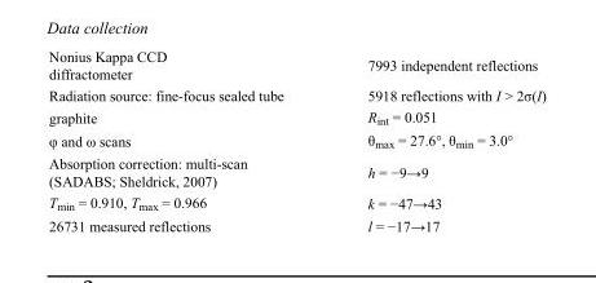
<table><tbody><tr><td>Nonius Kappa CCD diffractometer</td><td>7993 independent reflections</td></tr><tr><td>Radiation source: fine-focus sealed tube</td><td>5918 reflections with I &gt; 2σ(I)</td></tr><tr><td>graphite</td><td>R<sub>int</sub> = 0.051</td></tr><tr><td>φ and ω scans</td><td>θ<sub>max</sub> = 27.6°, θ<sub>min</sub> = 3.0°</td></tr><tr><td>Absorption correction: multi-scan (SADABS; Sheldrick, 2007)</td><td>h = −9→9</td></tr><tr><td>T<sub>min</sub> = 0.910, T<sub>max</sub> = 0.966</td><td>k = −47→43</td></tr><tr><td>26731 measured reflections</td><td>l = −17→17</td></tr></tbody></table>